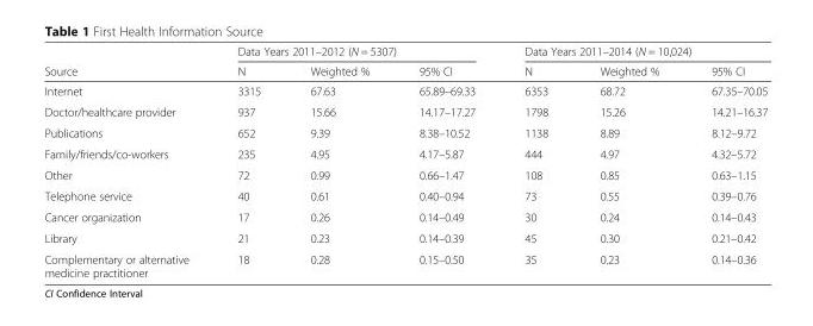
<table><thead><tr><td rowspan="2">Source</td><td colspan="3">Data Years 2011–2012 (N = 5307)</td><td colspan="3">Data Years 2011–2014 (N = 10,024)</td></tr><tr><td>N</td><td>Weighted %</td><td>95% CI</td><td>N</td><td>Weighted %</td><td>95% CI</td></tr></thead><tbody><tr><td>Internet</td><td>3315</td><td>67.63</td><td>65.89–69.33</td><td>6353</td><td>68.72</td><td>67.35–70.05</td></tr><tr><td>Doctor/healthcare provider</td><td>937</td><td>15.66</td><td>14.17–17.27</td><td>1798</td><td>15.26</td><td>14.21–16.37</td></tr><tr><td>Publications</td><td>652</td><td>9.39</td><td>8.38–10.52</td><td>1138</td><td>8.89</td><td>8.12–9.72</td></tr><tr><td>Family/friends/co-workers</td><td>235</td><td>4.95</td><td>4.17–5.87</td><td>444</td><td>4.97</td><td>4.32–5.72</td></tr><tr><td>Other</td><td>72</td><td>0.99</td><td>0.66–1.47</td><td>108</td><td>0.85</td><td>0.63–1.15</td></tr><tr><td>Telephone service</td><td>40</td><td>0.61</td><td>0.40–0.94</td><td>73</td><td>0.55</td><td>0.39–0.76</td></tr><tr><td>Cancer organization</td><td>17</td><td>0.26</td><td>0.14–0.49</td><td>30</td><td>0.24</td><td>0.14–0.43</td></tr><tr><td>Library</td><td>21</td><td>0.23</td><td>0.14–0.39</td><td>45</td><td>0.30</td><td>0.21–0.42</td></tr><tr><td>Complementary or alternative medicine practitioner</td><td>18</td><td>0.28</td><td>0.15–0.50</td><td>35</td><td>0.23</td><td>0.14–0.36</td></tr></tbody></table>